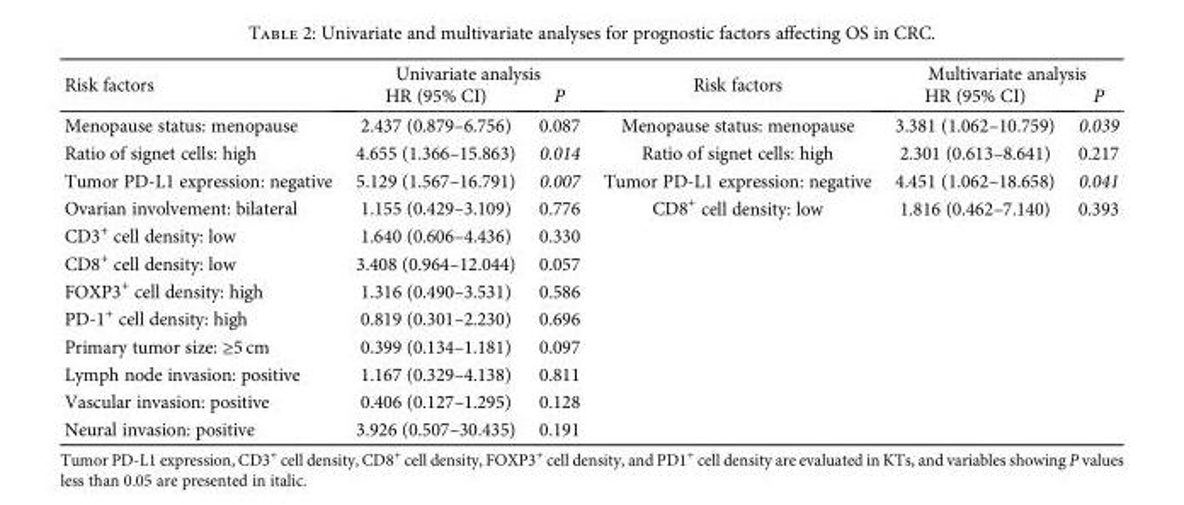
<table><thead><tr><td rowspan="2">Risk factors</td><td colspan="2">Univariate analysis</td><td rowspan="2">Risk factors</td><td colspan="2">Multivariate analysis</td></tr><tr><td>HR (95% CI)</td><td>P</td><td>HR (95% CI)</td><td>P</td></tr></thead><tbody><tr><td>Menopause status: menopause</td><td>2.437 (0.879–6.756)</td><td>0.087</td><td>Menopause status: menopause</td><td>3.381 (1.062–10.759)</td><td>0.039</td></tr><tr><td>Ratio of signet cells: high</td><td>4.655 (1.366–15.863)</td><td>0.014</td><td>Ratio of signet cells: high</td><td>2.301 (0.613–8.641)</td><td>0.217</td></tr><tr><td>Tumor PD-L1 expression: negative</td><td>5.129 (1.567–16.791)</td><td>0.007</td><td>Tumor PD-L1 expression: negative</td><td>4.451 (1.062–18.658)</td><td>0.041</td></tr><tr><td>Ovarian involvement: bilateral</td><td>1.155 (0.429–3.109)</td><td>0.776</td><td>CD8<sup>+</sup> cell density: low</td><td>1.816 (0.462–7.140)</td><td>0.393</td></tr><tr><td>CD3<sup>+</sup> cell density: low</td><td>1.640 (0.606–4.436)</td><td>0.330</td><td></td><td></td><td></td></tr><tr><td>CD8<sup>+</sup> cell density: low</td><td>3.408 (0.964–12.044)</td><td>0.057</td><td></td><td></td><td></td></tr><tr><td>FOXP3<sup>+</sup> cell density: high</td><td>1.316 (0.490–3.531)</td><td>0.586</td><td></td><td></td><td></td></tr><tr><td>PD-1<sup>+</sup> cell density: high</td><td>0.819 (0.301–2.230)</td><td>0.696</td><td></td><td></td><td></td></tr><tr><td>Primary tumor size: ≥5 cm</td><td>0.399 (0.134–1.181)</td><td>0.097</td><td></td><td></td><td></td></tr><tr><td>Lymph node invasion: positive</td><td>1.167 (0.329–4.138)</td><td>0.811</td><td></td><td></td><td></td></tr><tr><td>Vascular invasion: positive</td><td>0.406 (0.127–1.295)</td><td>0.128</td><td></td><td></td><td></td></tr><tr><td>Neural invasion: positive</td><td>3.926 (0.507–30.435)</td><td>0.191</td><td></td><td></td><td></td></tr></tbody></table>